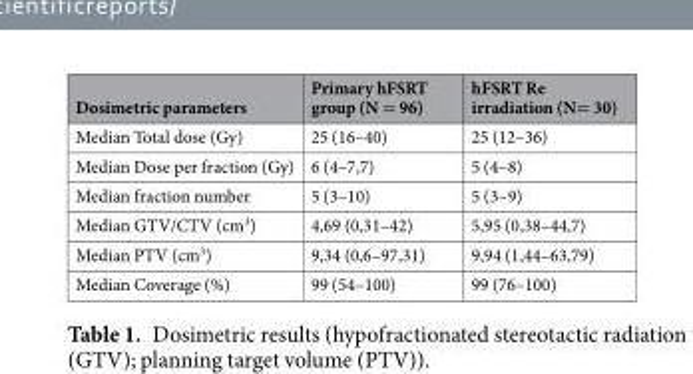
<table><thead><tr><td>Dosimetric parameters</td><td>Primary hFSRT group (N = 96)</td><td>hFSRT Re irradiation (N= 30)</td></tr></thead><tbody><tr><td>Median Total dose (Gy)</td><td>25 (16–40)</td><td>25 (12–36)</td></tr><tr><td>Median Dose per fraction (Gy)</td><td>6 (4–7,7)</td><td>5 (4–8)</td></tr><tr><td>Median fraction number</td><td>5 (3–10)</td><td>5 (3–9)</td></tr><tr><td>Median GTV/CTV (cm<sup>3</sup>)</td><td>4,69 (0,31–42)</td><td>5,95 (0,38–44,7)</td></tr><tr><td>Median PTV (cm<sup>3</sup>)</td><td>9,34 (0,6–97,31)</td><td>9,94 (1,44–63,79)</td></tr><tr><td>Median Coverage (%)</td><td>99 (54–100)</td><td>99 (76–100)</td></tr></tbody></table>